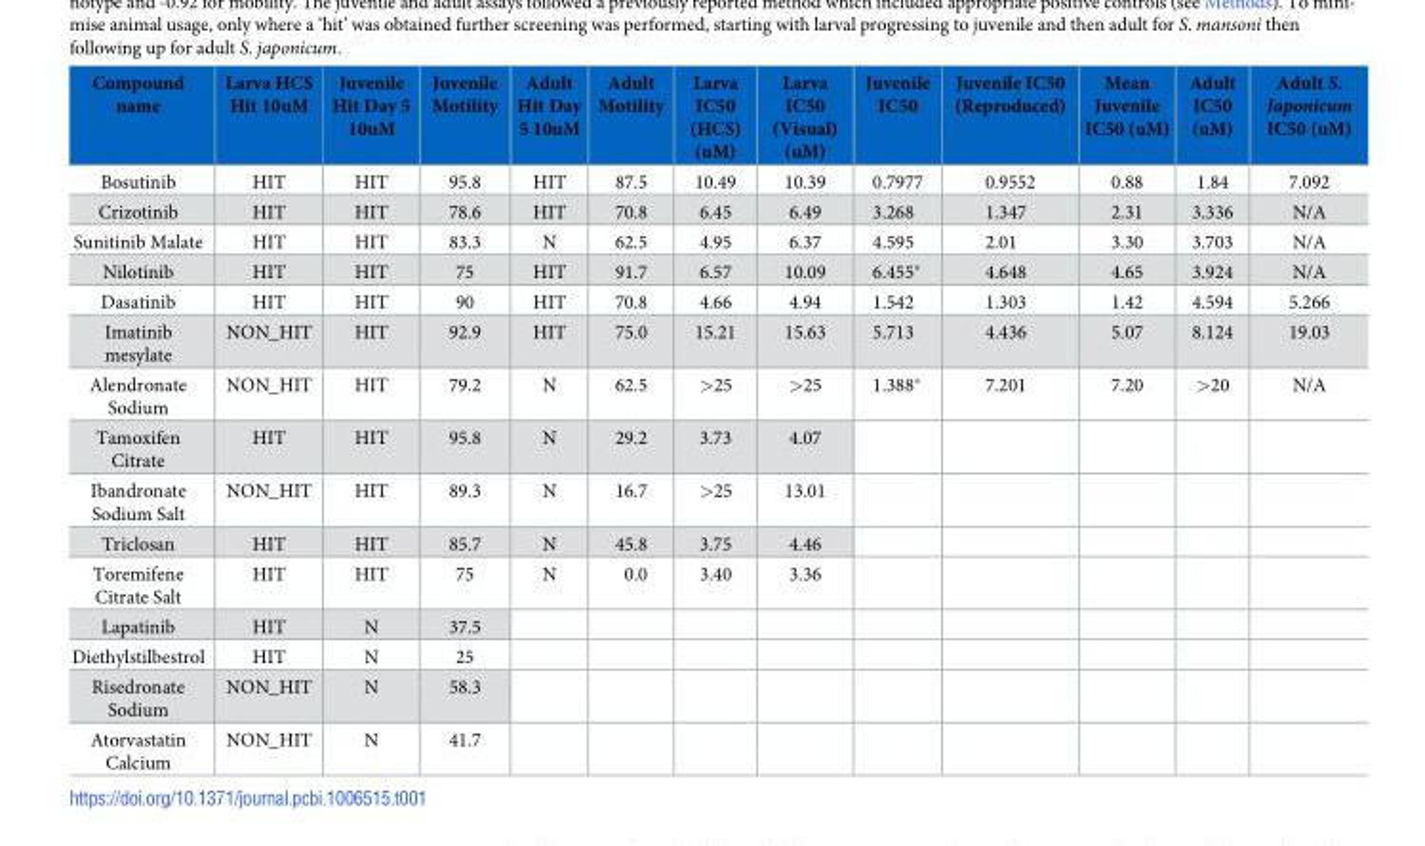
<table><thead><tr><td>Compound name</td><td>Larva HCS Hit 10uM</td><td>Juvenile Hit Day 5 10uM</td><td>Juvenile Motility</td><td>Adult Hit Day 5 10uM</td><td>Adult Motility</td><td>Larva IC50 (HCS) (uM)</td><td>Larva IC50 (Visual) (uM)</td><td>Juvenile IC50</td><td>Juvenile IC50 (Reproduced)</td><td>Mean Juvenile IC50 (uM)</td><td>Adult IC50 (uM)</td><td>Adult S. Japonicum IC50 (uM)</td></tr></thead><tbody><tr><td>Bosutinib</td><td>HIT</td><td>HIT</td><td>95.8</td><td>HIT</td><td>87.5</td><td>10.49</td><td>10.39</td><td>0.7977</td><td>0.9552</td><td>0.88</td><td>1.84</td><td>7.092</td></tr><tr><td>Crizotinib</td><td>HIT</td><td>HIT</td><td>78.6</td><td>HIT</td><td>70.8</td><td>6.45</td><td>6.49</td><td>3.268</td><td>1.347</td><td>2.31</td><td>3.336</td><td>N/A</td></tr><tr><td>Sunitinib Malate</td><td>HIT</td><td>HIT</td><td>83.3</td><td>N</td><td>62.5</td><td>4.95</td><td>6.37</td><td>4.595</td><td>2.01</td><td>3.30</td><td>3.703</td><td>N/A</td></tr><tr><td>Nilotinib</td><td>HIT</td><td>HIT</td><td>75</td><td>HIT</td><td>91.7</td><td>6.57</td><td>10.09</td><td>6.455*</td><td>4.648</td><td>4.65</td><td>3.924</td><td>N/A</td></tr><tr><td>Dasatinib</td><td>HIT</td><td>HIT</td><td>90</td><td>HIT</td><td>70.8</td><td>4.66</td><td>4.94</td><td>1.542</td><td>1.303</td><td>1.42</td><td>4.594</td><td>5.266</td></tr><tr><td>Imatinib mesylate</td><td>NON_HIT</td><td>HIT</td><td>92.9</td><td>HIT</td><td>75.0</td><td>15.21</td><td>15.63</td><td>5.713</td><td>4.436</td><td>5.07</td><td>8.124</td><td>19.03</td></tr><tr><td>Alendronate Sodium</td><td>NON_HIT</td><td>HIT</td><td>79.2</td><td>N</td><td>62.5</td><td>&gt;25</td><td>&gt;25</td><td>1.388*</td><td>7.201</td><td>7.20</td><td>&gt;20</td><td>N/A</td></tr><tr><td>Tamoxifen Citrate</td><td>HIT</td><td>HIT</td><td>95.8</td><td>N</td><td>29.2</td><td>3.73</td><td>4.07</td><td></td><td></td><td></td><td></td><td></td></tr><tr><td>Ibandronate Sodium Salt</td><td>NON_HIT</td><td>HIT</td><td>89.3</td><td>N</td><td>16.7</td><td>&gt;25</td><td>13.01</td><td></td><td></td><td></td><td></td><td></td></tr><tr><td>Triclosan</td><td>HIT</td><td>HIT</td><td>85.7</td><td>N</td><td>45.8</td><td>3.75</td><td>4.46</td><td></td><td></td><td></td><td></td><td></td></tr><tr><td>Toremifene Citrate Salt</td><td>HIT</td><td>HIT</td><td>75</td><td>N</td><td>0.0</td><td>3.40</td><td>3.36</td><td></td><td></td><td></td><td></td><td></td></tr><tr><td>Lapatinib</td><td>HIT</td><td>N</td><td>37.5</td><td></td><td></td><td></td><td></td><td></td><td></td><td></td><td></td><td></td></tr><tr><td>Diethylstilbestrol</td><td>HIT</td><td>N</td><td>25</td><td></td><td></td><td></td><td></td><td></td><td></td><td></td><td></td><td></td></tr><tr><td>Risedronate Sodium</td><td>NON_HIT</td><td>N</td><td>58.3</td><td></td><td></td><td></td><td></td><td></td><td></td><td></td><td></td><td></td></tr><tr><td>Atorvastatin Calcium</td><td>NON_HIT</td><td>N</td><td>41.7</td><td></td><td></td><td></td><td></td><td></td><td></td><td></td><td></td><td></td></tr></tbody></table>